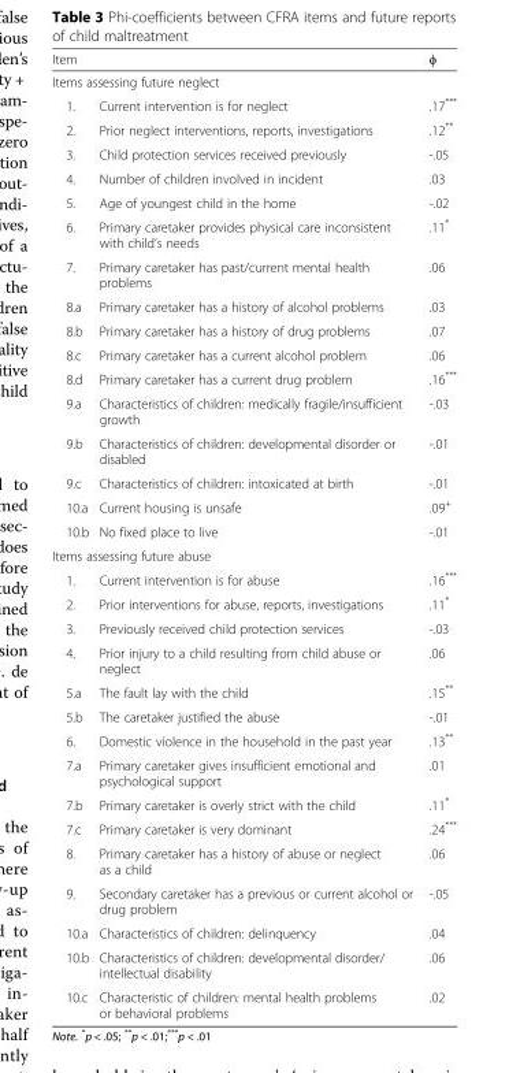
<table><thead><tr><td>Item</td><td></td><td>ϕ</td></tr></thead><tbody><tr><td colspan="3">Items assessing future neglect</td></tr><tr><td>1.</td><td>Current intervention is for neglect</td><td>.17***</td></tr><tr><td>2.</td><td>Prior neglect interventions, reports, investigations</td><td>.12**</td></tr><tr><td>3.</td><td>Child protection services received previously</td><td>-.05</td></tr><tr><td>4.</td><td>Number of children involved in incident</td><td>.03</td></tr><tr><td>5.</td><td>Age of youngest child in the home</td><td>-.02</td></tr><tr><td>6.</td><td>Primary caretaker provides physical care inconsistent with child’s needs</td><td>.11*</td></tr><tr><td>7.</td><td>Primary caretaker has past/current mental health problems</td><td>.06</td></tr><tr><td>8.a</td><td>Primary caretaker has a history of alcohol problems</td><td>.03</td></tr><tr><td>8.b</td><td>Primary caretaker has a history of drug problems</td><td>.07</td></tr><tr><td>8.c</td><td>Primary caretaker has a current alcohol problem</td><td>.06</td></tr><tr><td>8.d</td><td>Primary caretaker has a current drug problem</td><td>.16***</td></tr><tr><td>9.a</td><td>Characteristics of children: medically fragile/insufficient growth</td><td>-.03</td></tr><tr><td>9.b</td><td>Characteristics of children: developmental disorder or disabled</td><td>-.01</td></tr><tr><td>9.c</td><td>Characteristics of children: intoxicated at birth</td><td>-.01</td></tr><tr><td>10.a</td><td>Current housing is unsafe</td><td>.09<sup>+</sup></td></tr><tr><td>10.b</td><td>No fixed place to live</td><td>-.01</td></tr><tr><td colspan="3">Items assessing future abuse</td></tr><tr><td>1.</td><td>Current intervention is for abuse</td><td>.16***</td></tr><tr><td>2.</td><td>Prior interventions for abuse, reports, investigations</td><td>.11*</td></tr><tr><td>3.</td><td>Previously received child protection services</td><td>-.03</td></tr><tr><td>4.</td><td>Prior injury to a child resulting from child abuse or neglect</td><td>.06</td></tr><tr><td>5.a</td><td>The fault lay with the child</td><td>.15**</td></tr><tr><td>5.b</td><td>The caretaker justified the abuse</td><td>-.01</td></tr><tr><td>6.</td><td>Domestic violence in the household in the past year</td><td>.13**</td></tr><tr><td>7.a</td><td>Primary caretaker gives insufficient emotional and psychological support</td><td>.01</td></tr><tr><td>7.b</td><td>Primary caretaker is overly strict with the child</td><td>.11*</td></tr><tr><td>7.c</td><td>Primary caretaker is very dominant</td><td>.24***</td></tr><tr><td>8.</td><td>Primary caretaker has a history of abuse or neglect as a child</td><td>.06</td></tr><tr><td>9.</td><td>Secondary caretaker has a previous or current alcohol or drug problem</td><td>-.05</td></tr><tr><td>10.a</td><td>Characteristics of children: delinquency</td><td>.04</td></tr><tr><td>10.b</td><td>Characteristics of children: developmental disorder/ intellectual disability</td><td>.06</td></tr><tr><td>10.c</td><td>Characteristic of children: mental health problems or behavioral problems</td><td>.02</td></tr></tbody></table>